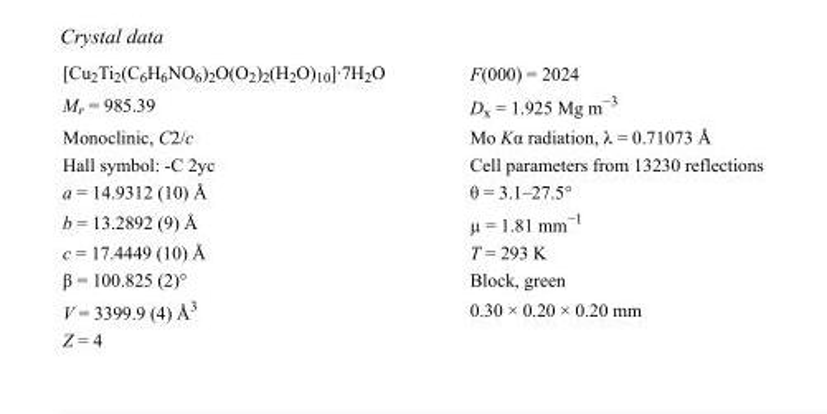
<table><tbody><tr><td>[Cu<sub>2</sub>Ti<sub>2</sub>(C<sub>6</sub>H<sub>6</sub>NO<sub>6</sub>)<sub>2</sub>O(O<sub>2</sub>)<sub>2</sub>(H<sub>2</sub>O)<sub>10</sub>]·7H<sub>2</sub>O</td><td>F(000) = 2024</td></tr><tr><td>M<sub>r</sub> = 985.39</td><td>D<sub>x</sub> = 1.925 Mg m<sup>−3</sup></td></tr><tr><td>Monoclinic, C2/c</td><td>Mo Kα radiation, λ = 0.71073 Å</td></tr><tr><td>Hall symbol: -C 2yc</td><td>Cell parameters from 13230 reflections</td></tr><tr><td>a = 14.9312 (10) Å</td><td>θ = 3.1–27.5°</td></tr><tr><td>b = 13.2892 (9) Å</td><td>µ = 1.81 mm<sup>−1</sup></td></tr><tr><td>c = 17.4449 (10) Å</td><td>T = 293 K</td></tr><tr><td>β = 100.825 (2)°</td><td>Block, green</td></tr><tr><td>V = 3399.9 (4) Å<sup>3</sup></td><td>0.30 × 0.20 × 0.20 mm</td></tr><tr><td>Z = 4</td><td></td></tr></tbody></table>